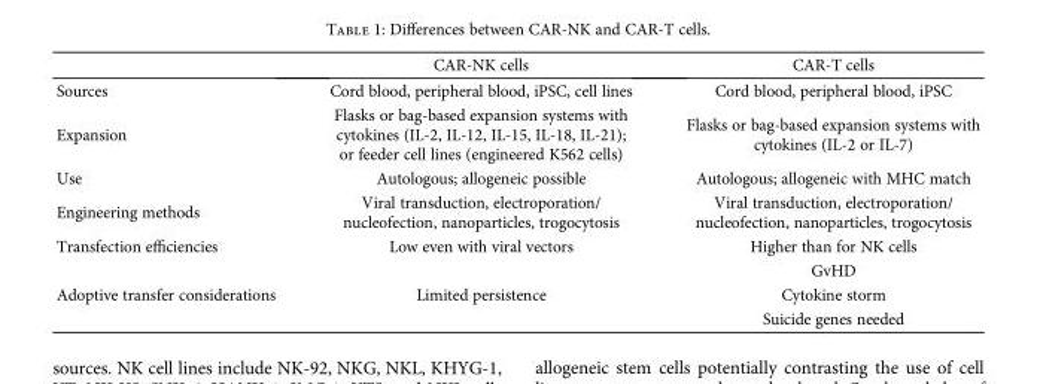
<table><thead><tr><td></td><td>CAR-NK cells</td><td>CAR-T cells</td></tr></thead><tbody><tr><td>Sources</td><td>Cord blood, peripheral blood, iPSC, cell lines</td><td>Cord blood, peripheral blood, iPSC</td></tr><tr><td>Expansion</td><td>Flasks or bag-based expansion systems with cytokines (IL-2, IL-12, IL-15, IL-18, IL-21); or feeder cell lines (engineered K562 cells)</td><td>Flasks or bag-based expansion systems with cytokines (IL-2 or IL-7)</td></tr><tr><td>Use</td><td>Autologous; allogeneic possible</td><td>Autologous; allogeneic with MHC match</td></tr><tr><td>Engineering methods</td><td>Viral transduction, electroporation/ nucleofection, nanoparticles, trogocytosis</td><td>Viral transduction, electroporation/ nucleofection, nanoparticles, trogocytosis</td></tr><tr><td>Transfection efficiencies</td><td>Low even with viral vectors</td><td>Higher than for NK cells</td></tr><tr><td rowspan="3">Adoptive transfer considerations</td><td rowspan="3">Limited persistence</td><td>GvHD</td></tr><tr><td>Cytokine storm</td></tr><tr><td>Suicide genes needed</td></tr></tbody></table>